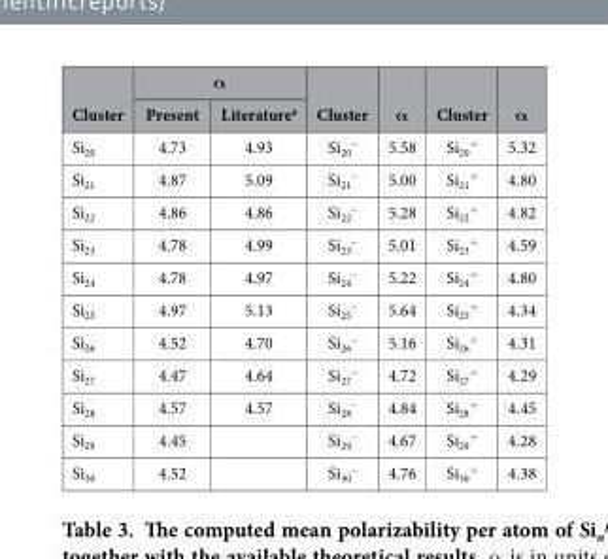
<table><thead><tr><td rowspan="2">Cluster</td><td colspan="2">α</td><td rowspan="2">Cluster</td><td rowspan="2">α</td><td rowspan="2">Cluster</td><td rowspan="2">α</td></tr><tr><td>Present</td><td>Literature<sup>a</sup></td></tr></thead><tbody><tr><td>Si<sub>20</sub></td><td>4.73</td><td>4.93</td><td>Si<sub>20</sub> <sup>–</sup></td><td>5.58</td><td>Si<sub>20</sub> <sup>+</sup></td><td>5.32</td></tr><tr><td>Si<sub>21</sub></td><td>4.87</td><td>5.09</td><td>Si<sub>21</sub> <sup>–</sup></td><td>5.00</td><td>Si<sub>21</sub> <sup>+</sup></td><td>4.80</td></tr><tr><td>Si<sub>22</sub></td><td>4.86</td><td>4.86</td><td>Si<sub>22</sub> <sup>–</sup></td><td>5.28</td><td>Si<sub>22</sub> <sup>+</sup></td><td>4.82</td></tr><tr><td>Si<sub>23</sub></td><td>4.78</td><td>4.99</td><td>Si<sub>23</sub> <sup>–</sup></td><td>5.01</td><td>Si<sub>23</sub> <sup>+</sup></td><td>4.59</td></tr><tr><td>Si<sub>24</sub></td><td>4.78</td><td>4.97</td><td>Si<sub>24</sub> <sup>–</sup></td><td>5.22</td><td>Si<sub>24</sub> <sup>+</sup></td><td>4.80</td></tr><tr><td>Si<sub>25</sub></td><td>4.97</td><td>5.13</td><td>Si<sub>25</sub> <sup>–</sup></td><td>5.64</td><td>Si<sub>25</sub> <sup>+</sup></td><td>4.34</td></tr><tr><td>Si<sub>26</sub></td><td>4.52</td><td>4.70</td><td>Si<sub>26</sub> <sup>–</sup></td><td>5.16</td><td>Si<sub>26</sub> <sup>+</sup></td><td>4.31</td></tr><tr><td>Si<sub>27</sub></td><td>4.47</td><td>4.64</td><td>Si<sub>27</sub> <sup>–</sup></td><td>4.72</td><td>Si<sub>27</sub> <sup>+</sup></td><td>4.29</td></tr><tr><td>Si<sub>28</sub></td><td>4.57</td><td>4.57</td><td>Si<sub>28</sub> <sup>–</sup></td><td>4.84</td><td>Si<sub>28</sub> <sup>+</sup></td><td>4.45</td></tr><tr><td>Si<sub>29</sub></td><td>4.45</td><td></td><td>Si<sub>29</sub> <sup>–</sup></td><td>4.67</td><td>Si<sub>29</sub> <sup>+</sup></td><td>4.28</td></tr><tr><td>Si<sub>30</sub></td><td>4.52</td><td></td><td>Si<sub>30</sub> <sup>–</sup></td><td>4.76</td><td>Si<sub>30</sub> <sup>+</sup></td><td>4.38</td></tr></tbody></table>